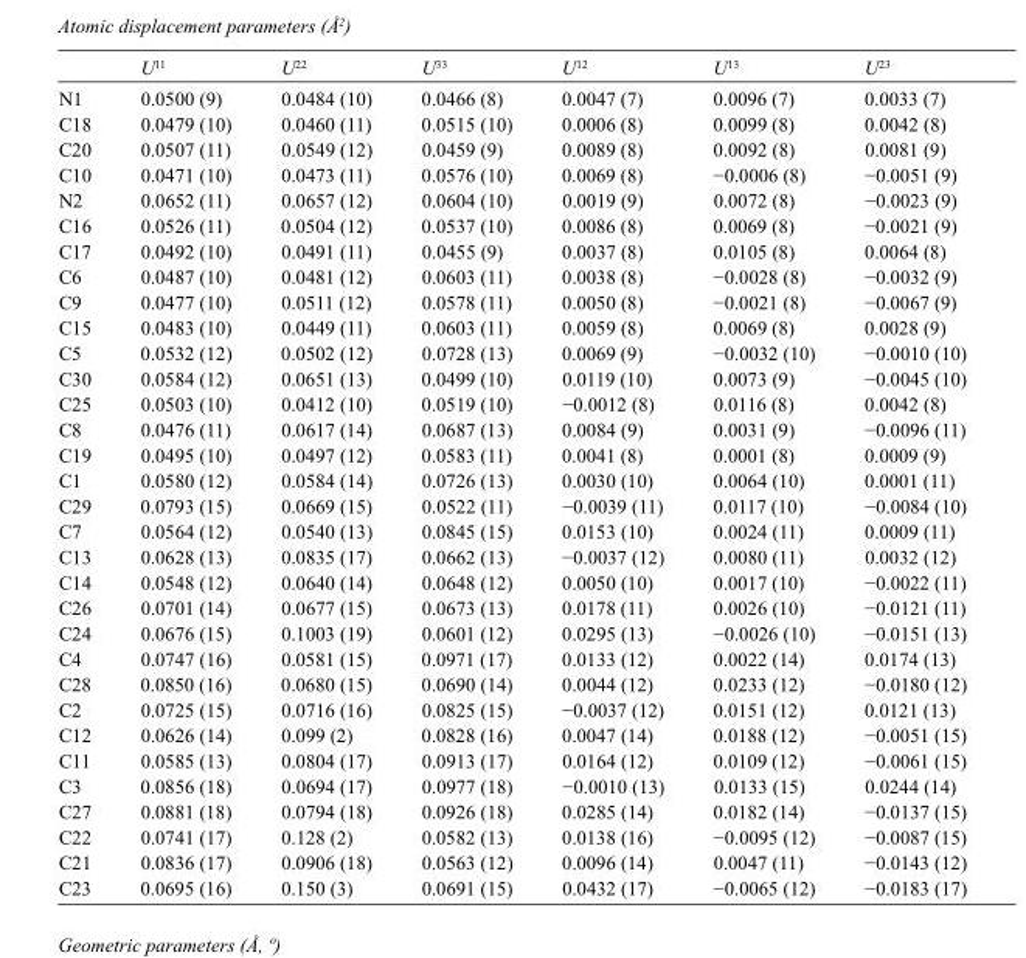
<table><thead><tr><td></td><td>U<sup>11</sup></td><td>U<sup>22</sup></td><td>U<sup>33</sup></td><td>U<sup>12</sup></td><td>U<sup>13</sup></td><td>U<sup>23</sup></td></tr></thead><tbody><tr><td>N1</td><td>0.0500 (9)</td><td>0.0484 (10)</td><td>0.0466 (8)</td><td>0.0047 (7)</td><td>0.0096 (7)</td><td>0.0033 (7)</td></tr><tr><td>C18</td><td>0.0479 (10)</td><td>0.0460 (11)</td><td>0.0515 (10)</td><td>0.0006 (8)</td><td>0.0099 (8)</td><td>0.0042 (8)</td></tr><tr><td>C20</td><td>0.0507 (11)</td><td>0.0549 (12)</td><td>0.0459 (9)</td><td>0.0089 (8)</td><td>0.0092 (8)</td><td>0.0081 (9)</td></tr><tr><td>C10</td><td>0.0471 (10)</td><td>0.0473 (11)</td><td>0.0576 (10)</td><td>0.0069 (8)</td><td>−0.0006 (8)</td><td>−0.0051 (9)</td></tr><tr><td>N2</td><td>0.0652 (11)</td><td>0.0657 (12)</td><td>0.0604 (10)</td><td>0.0019 (9)</td><td>0.0072 (8)</td><td>−0.0023 (9)</td></tr><tr><td>C16</td><td>0.0526 (11)</td><td>0.0504 (12)</td><td>0.0537 (10)</td><td>0.0086 (8)</td><td>0.0069 (8)</td><td>−0.0021 (9)</td></tr><tr><td>C17</td><td>0.0492 (10)</td><td>0.0491 (11)</td><td>0.0455 (9)</td><td>0.0037 (8)</td><td>0.0105 (8)</td><td>0.0064 (8)</td></tr><tr><td>C6</td><td>0.0487 (10)</td><td>0.0481 (12)</td><td>0.0603 (11)</td><td>0.0038 (8)</td><td>−0.0028 (8)</td><td>−0.0032 (9)</td></tr><tr><td>C9</td><td>0.0477 (10)</td><td>0.0511 (12)</td><td>0.0578 (11)</td><td>0.0050 (8)</td><td>−0.0021 (8)</td><td>−0.0067 (9)</td></tr><tr><td>C15</td><td>0.0483 (10)</td><td>0.0449 (11)</td><td>0.0603 (11)</td><td>0.0059 (8)</td><td>0.0069 (8)</td><td>0.0028 (9)</td></tr><tr><td>C5</td><td>0.0532 (12)</td><td>0.0502 (12)</td><td>0.0728 (13)</td><td>0.0069 (9)</td><td>−0.0032 (10)</td><td>−0.0010 (10)</td></tr><tr><td>C30</td><td>0.0584 (12)</td><td>0.0651 (13)</td><td>0.0499 (10)</td><td>0.0119 (10)</td><td>0.0073 (9)</td><td>−0.0045 (10)</td></tr><tr><td>C25</td><td>0.0503 (10)</td><td>0.0412 (10)</td><td>0.0519 (10)</td><td>−0.0012 (8)</td><td>0.0116 (8)</td><td>0.0042 (8)</td></tr><tr><td>C8</td><td>0.0476 (11)</td><td>0.0617 (14)</td><td>0.0687 (13)</td><td>0.0084 (9)</td><td>0.0031 (9)</td><td>−0.0096 (11)</td></tr><tr><td>C19</td><td>0.0495 (10)</td><td>0.0497 (12)</td><td>0.0583 (11)</td><td>0.0041 (8)</td><td>0.0001 (8)</td><td>0.0009 (9)</td></tr><tr><td>C1</td><td>0.0580 (12)</td><td>0.0584 (14)</td><td>0.0726 (13)</td><td>0.0030 (10)</td><td>0.0064 (10)</td><td>0.0001 (11)</td></tr><tr><td>C29</td><td>0.0793 (15)</td><td>0.0669 (15)</td><td>0.0522 (11)</td><td>−0.0039 (11)</td><td>0.0117 (10)</td><td>−0.0084 (10)</td></tr><tr><td>C7</td><td>0.0564 (12)</td><td>0.0540 (13)</td><td>0.0845 (15)</td><td>0.0153 (10)</td><td>0.0024 (11)</td><td>0.0009 (11)</td></tr><tr><td>C13</td><td>0.0628 (13)</td><td>0.0835 (17)</td><td>0.0662 (13)</td><td>−0.0037 (12)</td><td>0.0080 (11)</td><td>0.0032 (12)</td></tr><tr><td>C14</td><td>0.0548 (12)</td><td>0.0640 (14)</td><td>0.0648 (12)</td><td>0.0050 (10)</td><td>0.0017 (10)</td><td>−0.0022 (11)</td></tr><tr><td>C26</td><td>0.0701 (14)</td><td>0.0677 (15)</td><td>0.0673 (13)</td><td>0.0178 (11)</td><td>0.0026 (10)</td><td>−0.0121 (11)</td></tr><tr><td>C24</td><td>0.0676 (15)</td><td>0.1003 (19)</td><td>0.0601 (12)</td><td>0.0295 (13)</td><td>−0.0026 (10)</td><td>−0.0151 (13)</td></tr><tr><td>C4</td><td>0.0747 (16)</td><td>0.0581 (15)</td><td>0.0971 (17)</td><td>0.0133 (12)</td><td>0.0022 (14)</td><td>0.0174 (13)</td></tr><tr><td>C28</td><td>0.0850 (16)</td><td>0.0680 (15)</td><td>0.0690 (14)</td><td>0.0044 (12)</td><td>0.0233 (12)</td><td>−0.0180 (12)</td></tr><tr><td>C2</td><td>0.0725 (15)</td><td>0.0716 (16)</td><td>0.0825 (15)</td><td>−0.0037 (12)</td><td>0.0151 (12)</td><td>0.0121 (13)</td></tr><tr><td>C12</td><td>0.0626 (14)</td><td>0.099 (2)</td><td>0.0828 (16)</td><td>0.0047 (14)</td><td>0.0188 (12)</td><td>−0.0051 (15)</td></tr><tr><td>C11</td><td>0.0585 (13)</td><td>0.0804 (17)</td><td>0.0913 (17)</td><td>0.0164 (12)</td><td>0.0109 (12)</td><td>−0.0061 (15)</td></tr><tr><td>C3</td><td>0.0856 (18)</td><td>0.0694 (17)</td><td>0.0977 (18)</td><td>−0.0010 (13)</td><td>0.0133 (15)</td><td>0.0244 (14)</td></tr><tr><td>C27</td><td>0.0881 (18)</td><td>0.0794 (18)</td><td>0.0926 (18)</td><td>0.0285 (14)</td><td>0.0182 (14)</td><td>−0.0137 (15)</td></tr><tr><td>C22</td><td>0.0741 (17)</td><td>0.128 (2)</td><td>0.0582 (13)</td><td>0.0138 (16)</td><td>−0.0095 (12)</td><td>−0.0087 (15)</td></tr><tr><td>C21</td><td>0.0836 (17)</td><td>0.0906 (18)</td><td>0.0563 (12)</td><td>0.0096 (14)</td><td>0.0047 (11)</td><td>−0.0143 (12)</td></tr><tr><td>C23</td><td>0.0695 (16)</td><td>0.150 (3)</td><td>0.0691 (15)</td><td>0.0432 (17)</td><td>−0.0065 (12)</td><td>−0.0183 (17)</td></tr></tbody></table>